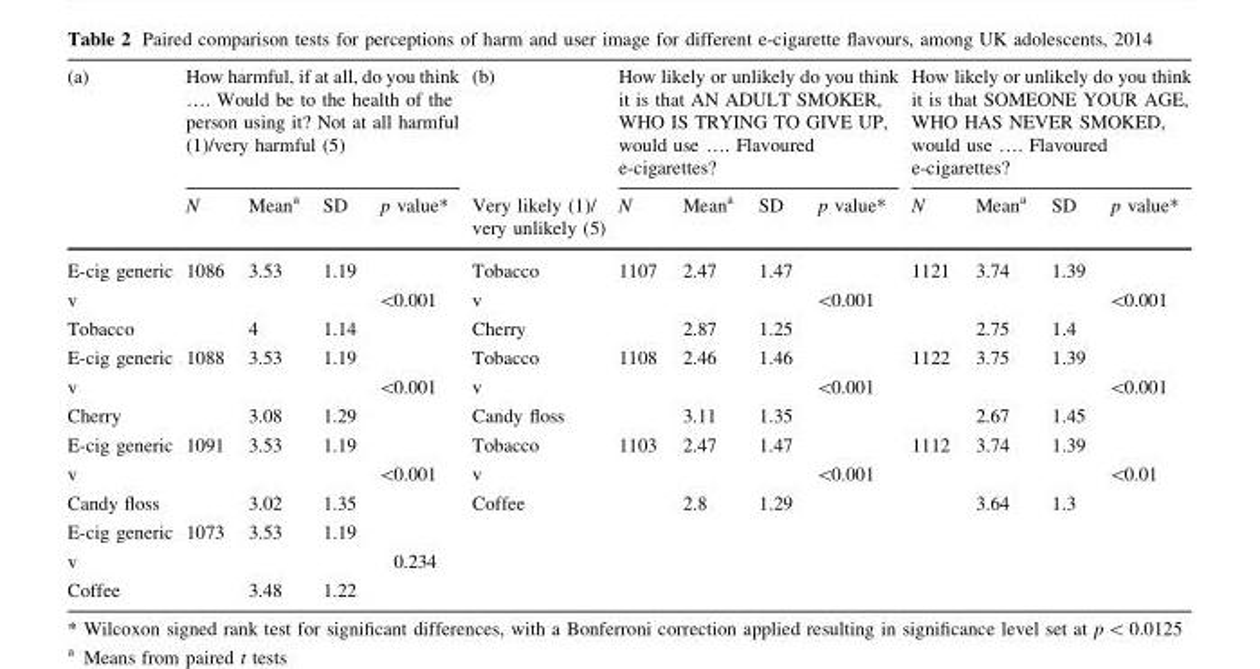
<table><thead><tr><td rowspan="2">(a)</td><td colspan="4">How harmful, if at all, do you think …. Would be to the health of the person using it? Not at all harmful (1)/very harmful (5)</td><td rowspan="2">(b) Very likely (1)/ very unlikely (5)</td><td colspan="4">How likely or unlikely do you think it is that AN ADULT SMOKER, WHO IS TRYING TO GIVE UP, would use …. Flavoured e-cigarettes?</td><td colspan="4">How likely or unlikely do you think it is that SOMEONE YOUR AGE, WHO HAS NEVER SMOKED, would use …. Flavoured e-cigarettes?</td></tr><tr><td>N</td><td>Mean<sup>a</sup></td><td>SD</td><td>p value*</td><td>N</td><td>Mean<sup>a</sup></td><td>SD</td><td>p value*</td><td>N</td><td>Mean<sup>a</sup></td><td>SD</td><td>p value*</td></tr></thead><tbody><tr><td>E-cig generic</td><td>1086</td><td>3.53</td><td>1.19</td><td></td><td>Tobacco</td><td>1107</td><td>2.47</td><td>1.47</td><td></td><td>1121</td><td>3.74</td><td>1.39</td><td></td></tr><tr><td>v</td><td></td><td></td><td></td><td>&lt;0.001</td><td>v</td><td></td><td></td><td></td><td>&lt;0.001</td><td></td><td></td><td></td><td>&lt;0.001</td></tr><tr><td>Tobacco</td><td></td><td>4</td><td>1.14</td><td></td><td>Cherry</td><td></td><td>2.87</td><td>1.25</td><td></td><td></td><td>2.75</td><td>1.4</td><td></td></tr><tr><td>E-cig generic</td><td>1088</td><td>3.53</td><td>1.19</td><td></td><td>Tobacco</td><td>1108</td><td>2.46</td><td>1.46</td><td></td><td>1122</td><td>3.75</td><td>1.39</td><td></td></tr><tr><td>v</td><td></td><td></td><td></td><td>&lt;0.001</td><td>v</td><td></td><td></td><td></td><td>&lt;0.001</td><td></td><td></td><td></td><td>&lt;0.001</td></tr><tr><td>Cherry</td><td></td><td>3.08</td><td>1.29</td><td></td><td>Candy floss</td><td></td><td>3.11</td><td>1.35</td><td></td><td></td><td>2.67</td><td>1.45</td><td></td></tr><tr><td>E-cig generic</td><td>1091</td><td>3.53</td><td>1.19</td><td></td><td>Tobacco</td><td>1103</td><td>2.47</td><td>1.47</td><td></td><td>1112</td><td>3.74</td><td>1.39</td><td></td></tr><tr><td>v</td><td></td><td></td><td></td><td>&lt;0.001</td><td>v</td><td></td><td></td><td></td><td>&lt;0.001</td><td></td><td></td><td></td><td>&lt;0.01</td></tr><tr><td>Candy floss</td><td></td><td>3.02</td><td>1.35</td><td></td><td>Coffee</td><td></td><td>2.8</td><td>1.29</td><td></td><td></td><td>3.64</td><td>1.3</td><td></td></tr><tr><td>E-cig generic</td><td>1073</td><td>3.53</td><td>1.19</td><td></td><td></td><td></td><td></td><td></td><td></td><td></td><td></td><td></td><td></td></tr><tr><td>v</td><td></td><td></td><td></td><td>0.234</td><td></td><td></td><td></td><td></td><td></td><td></td><td></td><td></td><td></td></tr><tr><td>Coffee</td><td></td><td>3.48</td><td>1.22</td><td></td><td></td><td></td><td></td><td></td><td></td><td></td><td></td><td></td><td></td></tr></tbody></table>